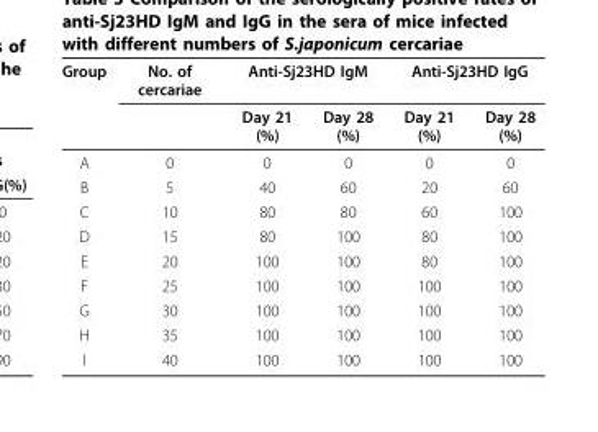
<table><thead><tr><td rowspan="2">Group</td><td rowspan="2">No. of cercariae</td><td colspan="2">Anti-Sj23HD IgM</td><td colspan="2">Anti-Sj23HD IgG</td></tr><tr><td>Day 21 (%)</td><td>Day 28 (%)</td><td>Day 21 (%)</td><td>Day 28 (%)</td></tr></thead><tbody><tr><td>A</td><td>0</td><td>0</td><td>0</td><td>0</td><td>0</td></tr><tr><td>B</td><td>5</td><td>40</td><td>60</td><td>20</td><td>60</td></tr><tr><td>C</td><td>10</td><td>80</td><td>80</td><td>60</td><td>100</td></tr><tr><td>D</td><td>15</td><td>80</td><td>100</td><td>80</td><td>100</td></tr><tr><td>E</td><td>20</td><td>100</td><td>100</td><td>80</td><td>100</td></tr><tr><td>F</td><td>25</td><td>100</td><td>100</td><td>100</td><td>100</td></tr><tr><td>G</td><td>30</td><td>100</td><td>100</td><td>100</td><td>100</td></tr><tr><td>H</td><td>35</td><td>100</td><td>100</td><td>100</td><td>100</td></tr><tr><td>I</td><td>40</td><td>100</td><td>100</td><td>100</td><td>100</td></tr></tbody></table>